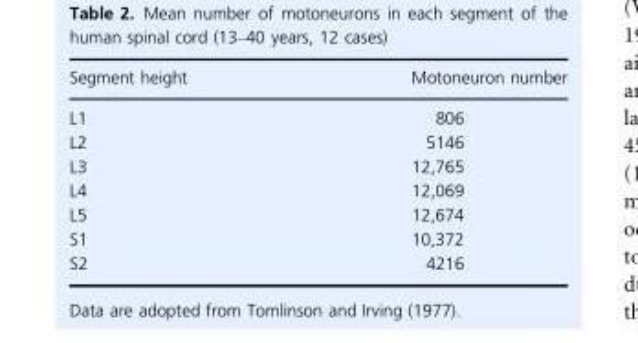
<table><thead><tr><td>Segment height</td><td>Motoneuron number</td></tr></thead><tbody><tr><td>L1</td><td>806</td></tr><tr><td>L2</td><td>5146</td></tr><tr><td>L3</td><td>12,765</td></tr><tr><td>L4</td><td>12,069</td></tr><tr><td>L5</td><td>12,674</td></tr><tr><td>S1</td><td>10,372</td></tr><tr><td>S2</td><td>4216</td></tr></tbody></table>